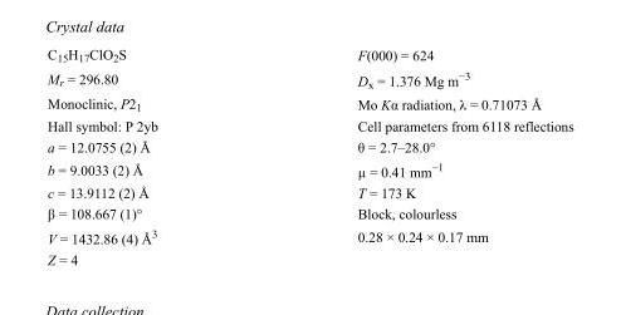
<table><tbody><tr><td>C<sub>15</sub>H<sub>17</sub>ClO<sub>2</sub>S</td><td>F(000) = 624</td></tr><tr><td>M<sub>r</sub> = 296.80</td><td>D<sub>x</sub> = 1.376 Mg m<sup>−3</sup></td></tr><tr><td>Monoclinic, P2<sub>1</sub></td><td>Mo Kα radiation, λ = 0.71073 Å</td></tr><tr><td>Hall symbol: P 2yb</td><td>Cell parameters from 6118 reflections</td></tr><tr><td>a = 12.0755 (2) Å</td><td>θ = 2.7–28.0°</td></tr><tr><td>b = 9.0033 (2) Å</td><td>µ = 0.41 mm<sup>−1</sup></td></tr><tr><td>c = 13.9112 (2) Å</td><td>T = 173 K</td></tr><tr><td>β = 108.667 (1)°</td><td>Block, colourless</td></tr><tr><td>V = 1432.86 (4) Å<sup>3</sup></td><td>0.28 × 0.24 × 0.17 mm</td></tr><tr><td>Z = 4</td><td></td></tr></tbody></table>